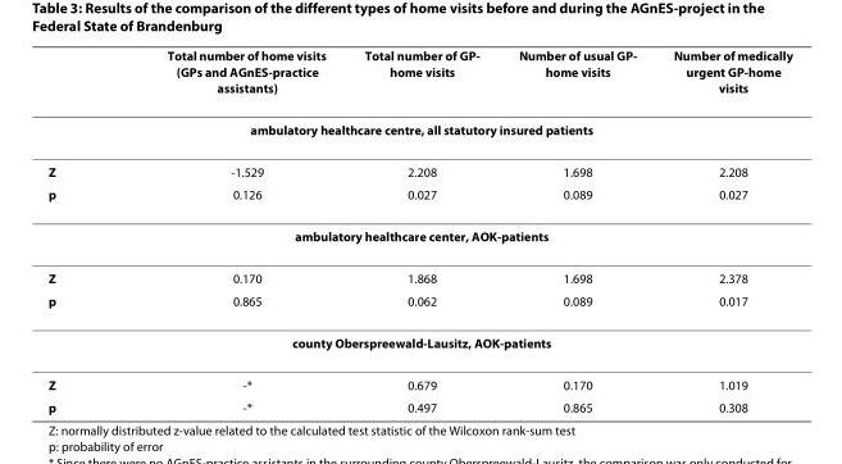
<table><thead><tr><td></td><td>Total number of home visits (GPs and AGnES-practice assistants)</td><td>Total number of GP- home visits</td><td>Number of usual GP- home visits</td><td>Number of medically urgent GP-home visits</td></tr></thead><tbody><tr><td colspan="5">ambulatory healthcare centre, all statutory insured patients</td></tr><tr><td>Z</td><td>-1.529</td><td>2.208</td><td>1.698</td><td>2.208</td></tr><tr><td>p</td><td>0.126</td><td>0.027</td><td>0.089</td><td>0.027</td></tr><tr><td colspan="5">ambulatory healthcare center, AOK-patients</td></tr><tr><td>Z</td><td>0.170</td><td>1.868</td><td>1.698</td><td>2.378</td></tr><tr><td>p</td><td>0.865</td><td>0.062</td><td>0.089</td><td>0.017</td></tr><tr><td colspan="5">county Oberspreewald-Lausitz, AOK-patients</td></tr><tr><td>Z</td><td>-*</td><td>0.679</td><td>0.170</td><td>1.019</td></tr><tr><td>p</td><td>-*</td><td>0.497</td><td>0.865</td><td>0.308</td></tr></tbody></table>